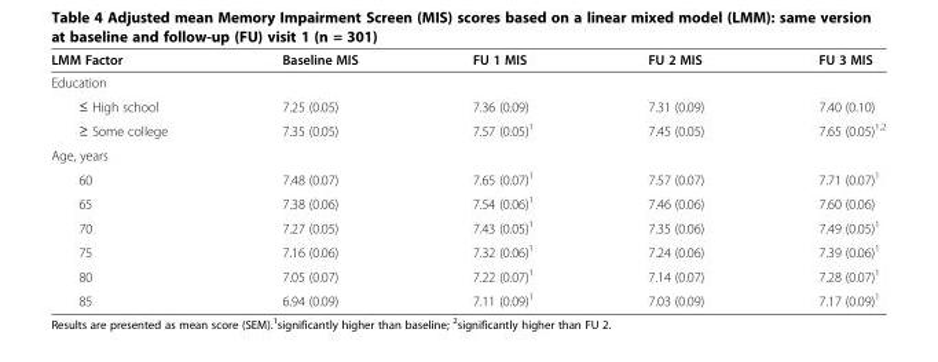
<table><thead><tr><td>LMM Factor</td><td>Baseline MIS</td><td>FU 1 MIS</td><td>FU 2 MIS</td><td>FU 3 MIS</td></tr></thead><tbody><tr><td colspan="5">Education</td></tr><tr><td>≤ High school</td><td>7.25 (0.05)</td><td>7.36 (0.09)</td><td>7.31 (0.09)</td><td>7.40 (0.10)</td></tr><tr><td>≥ Some college</td><td>7.35 (0.05)</td><td>7.57 (0.05)<sup>1</sup></td><td>7.45 (0.05)</td><td>7.65 (0.05)<sup>1,2</sup></td></tr><tr><td colspan="5">Age, years</td></tr><tr><td>60</td><td>7.48 (0.07)</td><td>7.65 (0.07)<sup>1</sup></td><td>7.57 (0.07)</td><td>7.71 (0.07)<sup>1</sup></td></tr><tr><td>65</td><td>7.38 (0.06)</td><td>7.54 (0.06)<sup>1</sup></td><td>7.46 (0.06)</td><td>7.60 (0.06)</td></tr><tr><td>70</td><td>7.27 (0.05)</td><td>7.43 (0.05)<sup>1</sup></td><td>7.35 (0.06)</td><td>7.49 (0.05)<sup>1</sup></td></tr><tr><td>75</td><td>7.16 (0.06)</td><td>7.32 (0.06)<sup>1</sup></td><td>7.24 (0.06)</td><td>7.39 (0.06)<sup>1</sup></td></tr><tr><td>80</td><td>7.05 (0.07)</td><td>7.22 (0.07)<sup>1</sup></td><td>7.14 (0.07)</td><td>7.28 (0.07)<sup>1</sup></td></tr><tr><td>85</td><td>6.94 (0.09)</td><td>7.11 (0.09)<sup>1</sup></td><td>7.03 (0.09)</td><td>7.17 (0.09)<sup>1</sup></td></tr></tbody></table>